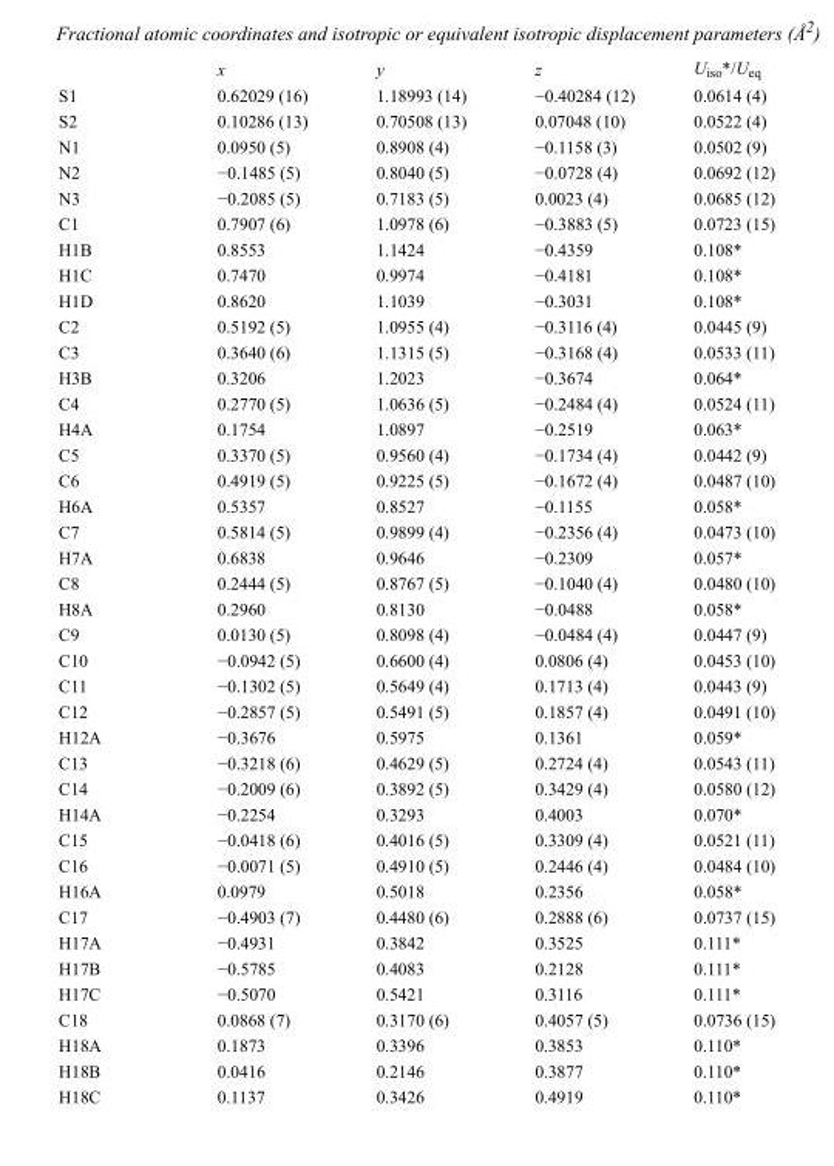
<table><thead><tr><td></td><td>x</td><td>y</td><td>z</td><td>U<sub>iso</sub>*/U<sub>eq</sub></td></tr></thead><tbody><tr><td>S1</td><td>0.62029 (16)</td><td>1.18993 (14)</td><td>−0.40284 (12)</td><td>0.0614 (4)</td></tr><tr><td>S2</td><td>0.10286 (13)</td><td>0.70508 (13)</td><td>0.07048 (10)</td><td>0.0522 (4)</td></tr><tr><td>N1</td><td>0.0950 (5)</td><td>0.8908 (4)</td><td>−0.1158 (3)</td><td>0.0502 (9)</td></tr><tr><td>N2</td><td>−0.1485 (5)</td><td>0.8040 (5)</td><td>−0.0728 (4)</td><td>0.0692 (12)</td></tr><tr><td>N3</td><td>−0.2085 (5)</td><td>0.7183 (5)</td><td>0.0023 (4)</td><td>0.0685 (12)</td></tr><tr><td>C1</td><td>0.7907 (6)</td><td>1.0978 (6)</td><td>−0.3883 (5)</td><td>0.0723 (15)</td></tr><tr><td>H1B</td><td>0.8553</td><td>1.1424</td><td>−0.4359</td><td>0.108*</td></tr><tr><td>H1C</td><td>0.7470</td><td>0.9974</td><td>−0.4181</td><td>0.108*</td></tr><tr><td>H1D</td><td>0.8620</td><td>1.1039</td><td>−0.3031</td><td>0.108*</td></tr><tr><td>C2</td><td>0.5192 (5)</td><td>1.0955 (4)</td><td>−0.3116 (4)</td><td>0.0445 (9)</td></tr><tr><td>C3</td><td>0.3640 (6)</td><td>1.1315 (5)</td><td>−0.3168 (4)</td><td>0.0533 (11)</td></tr><tr><td>H3B</td><td>0.3206</td><td>1.2023</td><td>−0.3674</td><td>0.064*</td></tr><tr><td>C4</td><td>0.2770 (5)</td><td>1.0636 (5)</td><td>−0.2484 (4)</td><td>0.0524 (11)</td></tr><tr><td>H4A</td><td>0.1754</td><td>1.0897</td><td>−0.2519</td><td>0.063*</td></tr><tr><td>C5</td><td>0.3370 (5)</td><td>0.9560 (4)</td><td>−0.1734 (4)</td><td>0.0442 (9)</td></tr><tr><td>C6</td><td>0.4919 (5)</td><td>0.9225 (5)</td><td>−0.1672 (4)</td><td>0.0487 (10)</td></tr><tr><td>H6A</td><td>0.5357</td><td>0.8527</td><td>−0.1155</td><td>0.058*</td></tr><tr><td>C7</td><td>0.5814 (5)</td><td>0.9899 (4)</td><td>−0.2356 (4)</td><td>0.0473 (10)</td></tr><tr><td>H7A</td><td>0.6838</td><td>0.9646</td><td>−0.2309</td><td>0.057*</td></tr><tr><td>C8</td><td>0.2444 (5)</td><td>0.8767 (5)</td><td>−0.1040 (4)</td><td>0.0480 (10)</td></tr><tr><td>H8A</td><td>0.2960</td><td>0.8130</td><td>−0.0488</td><td>0.058*</td></tr><tr><td>C9</td><td>0.0130 (5)</td><td>0.8098 (4)</td><td>−0.0484 (4)</td><td>0.0447 (9)</td></tr><tr><td>C10</td><td>−0.0942 (5)</td><td>0.6600 (4)</td><td>0.0806 (4)</td><td>0.0453 (10)</td></tr><tr><td>C11</td><td>−0.1302 (5)</td><td>0.5649 (4)</td><td>0.1713 (4)</td><td>0.0443 (9)</td></tr><tr><td>C12</td><td>−0.2857 (5)</td><td>0.5491 (5)</td><td>0.1857 (4)</td><td>0.0491 (10)</td></tr><tr><td>H12A</td><td>−0.3676</td><td>0.5975</td><td>0.1361</td><td>0.059*</td></tr><tr><td>C13</td><td>−0.3218 (6)</td><td>0.4629 (5)</td><td>0.2724 (4)</td><td>0.0543 (11)</td></tr><tr><td>C14</td><td>−0.2009 (6)</td><td>0.3892 (5)</td><td>0.3429 (4)</td><td>0.0580 (12)</td></tr><tr><td>H14A</td><td>−0.2254</td><td>0.3293</td><td>0.4003</td><td>0.070*</td></tr><tr><td>C15</td><td>−0.0418 (6)</td><td>0.4016 (5)</td><td>0.3309 (4)</td><td>0.0521 (11)</td></tr><tr><td>C16</td><td>−0.0071 (5)</td><td>0.4910 (5)</td><td>0.2446 (4)</td><td>0.0484 (10)</td></tr><tr><td>H16A</td><td>0.0979</td><td>0.5018</td><td>0.2356</td><td>0.058*</td></tr><tr><td>C17</td><td>−0.4903 (7)</td><td>0.4480 (6)</td><td>0.2888 (6)</td><td>0.0737 (15)</td></tr><tr><td>H17A</td><td>−0.4931</td><td>0.3842</td><td>0.3525</td><td>0.111*</td></tr><tr><td>H17B</td><td>−0.5785</td><td>0.4083</td><td>0.2128</td><td>0.111*</td></tr><tr><td>H17C</td><td>−0.5070</td><td>0.5421</td><td>0.3116</td><td>0.111*</td></tr><tr><td>C18</td><td>0.0868 (7)</td><td>0.3170 (6)</td><td>0.4057 (5)</td><td>0.0736 (15)</td></tr><tr><td>H18A</td><td>0.1873</td><td>0.3396</td><td>0.3853</td><td>0.110*</td></tr><tr><td>H18B</td><td>0.0416</td><td>0.2146</td><td>0.3877</td><td>0.110*</td></tr><tr><td>H18C</td><td>0.1137</td><td>0.3426</td><td>0.4919</td><td>0.110*</td></tr></tbody></table>